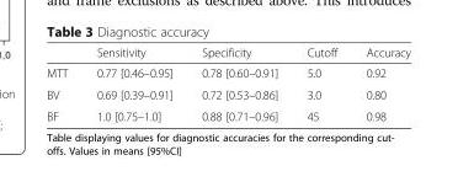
<table><thead><tr><td></td><td>Sensitivity</td><td>Specificity</td><td>Cutoff</td><td>Accuracy</td></tr></thead><tbody><tr><td>MTT</td><td>0.77 [0.46–0.95]</td><td>0.78 [0.60–0.91]</td><td>5.0</td><td>0.92</td></tr><tr><td>BV</td><td>0.69 [0.39–0.91]</td><td>0.72 [0.53–0.86]</td><td>3.0</td><td>0.80</td></tr><tr><td>BF</td><td>1.0 [0.75–1.0]</td><td>0.88 [0.71–0.96]</td><td>45</td><td>0.98</td></tr></tbody></table>